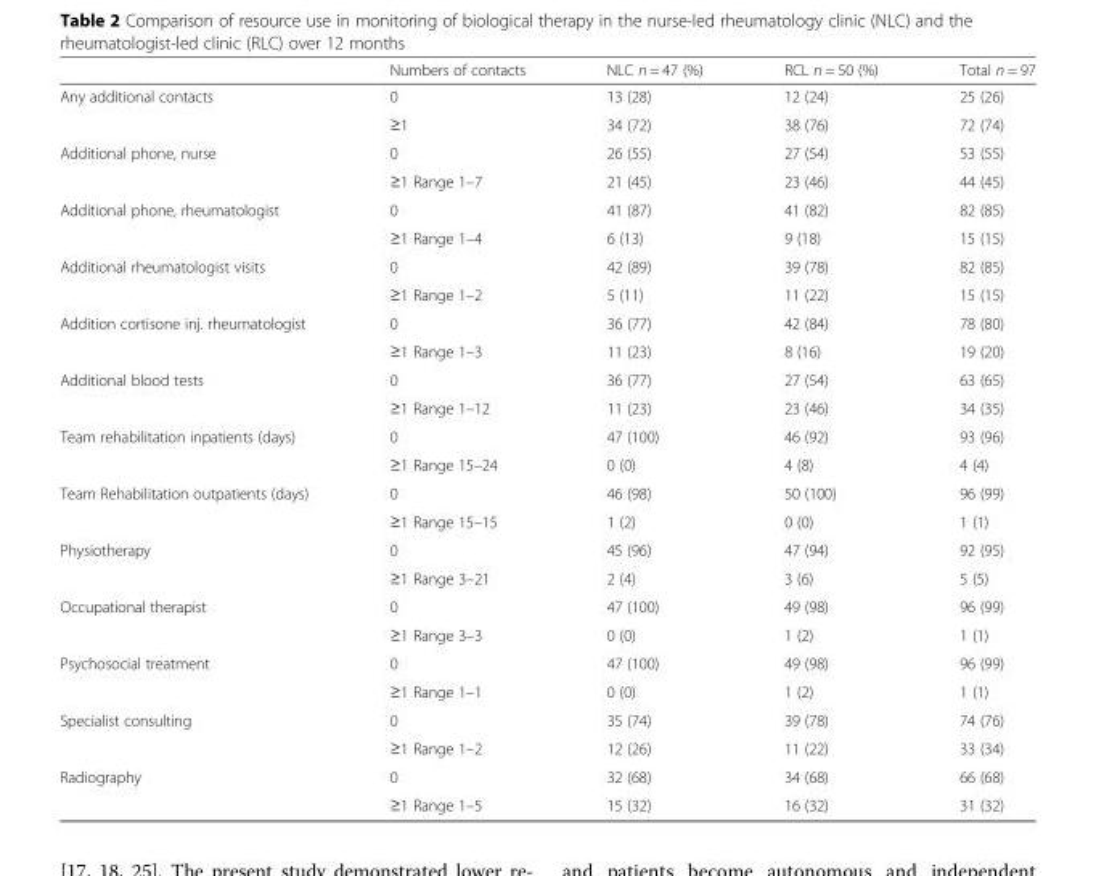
<table><thead><tr><td></td><td>Numbers of contacts</td><td>NLC n = 47 (%)</td><td>RCL n = 50 (%)</td><td>Total n = 97</td></tr></thead><tbody><tr><td rowspan="2">Any additional contacts</td><td>0</td><td>13 (28)</td><td>12 (24)</td><td>25 (26)</td></tr><tr><td>≥1</td><td>34 (72)</td><td>38 (76)</td><td>72 (74)</td></tr><tr><td rowspan="2">Additional phone, nurse</td><td>0</td><td>26 (55)</td><td>27 (54)</td><td>53 (55)</td></tr><tr><td>≥1 Range 1–7</td><td>21 (45)</td><td>23 (46)</td><td>44 (45)</td></tr><tr><td rowspan="2">Additional phone, rheumatologist</td><td>0</td><td>41 (87)</td><td>41 (82)</td><td>82 (85)</td></tr><tr><td>≥1 Range 1–4</td><td>6 (13)</td><td>9 (18)</td><td>15 (15)</td></tr><tr><td rowspan="2">Additional rheumatologist visits</td><td>0</td><td>42 (89)</td><td>39 (78)</td><td>82 (85)</td></tr><tr><td>≥1 Range 1–2</td><td>5 (11)</td><td>11 (22)</td><td>15 (15)</td></tr><tr><td rowspan="2">Addition cortisone inj. rheumatologist</td><td>0</td><td>36 (77)</td><td>42 (84)</td><td>78 (80)</td></tr><tr><td>≥1 Range 1–3</td><td>11 (23)</td><td>8 (16)</td><td>19 (20)</td></tr><tr><td rowspan="2">Additional blood tests</td><td>0</td><td>36 (77)</td><td>27 (54)</td><td>63 (65)</td></tr><tr><td>≥1 Range 1–12</td><td>11 (23)</td><td>23 (46)</td><td>34 (35)</td></tr><tr><td rowspan="2">Team rehabilitation inpatients (days)</td><td>0</td><td>47 (100)</td><td>46 (92)</td><td>93 (96)</td></tr><tr><td>≥1 Range 15–24</td><td>0 (0)</td><td>4 (8)</td><td>4 (4)</td></tr><tr><td rowspan="2">Team Rehabilitation outpatients (days)</td><td>0</td><td>46 (98)</td><td>50 (100)</td><td>96 (99)</td></tr><tr><td>≥1 Range 15–15</td><td>1 (2)</td><td>0 (0)</td><td>1 (1)</td></tr><tr><td rowspan="2">Physiotherapy</td><td>0</td><td>45 (96)</td><td>47 (94)</td><td>92 (95)</td></tr><tr><td>≥1 Range 3–21</td><td>2 (4)</td><td>3 (6)</td><td>5 (5)</td></tr><tr><td rowspan="2">Occupational therapist</td><td>0</td><td>47 (100)</td><td>49 (98)</td><td>96 (99)</td></tr><tr><td>≥1 Range 3–3</td><td>0 (0)</td><td>1 (2)</td><td>1 (1)</td></tr><tr><td rowspan="2">Psychosocial treatment</td><td>0</td><td>47 (100)</td><td>49 (98)</td><td>96 (99)</td></tr><tr><td>≥1 Range 1–1</td><td>0 (0)</td><td>1 (2)</td><td>1 (1)</td></tr><tr><td rowspan="2">Specialist consulting</td><td>0</td><td>35 (74)</td><td>39 (78)</td><td>74 (76)</td></tr><tr><td>≥1 Range 1–2</td><td>12 (26)</td><td>11 (22)</td><td>33 (34)</td></tr><tr><td rowspan="2">Radiography</td><td>0</td><td>32 (68)</td><td>34 (68)</td><td>66 (68)</td></tr><tr><td>≥1 Range 1–5</td><td>15 (32)</td><td>16 (32)</td><td>31 (32)</td></tr></tbody></table>